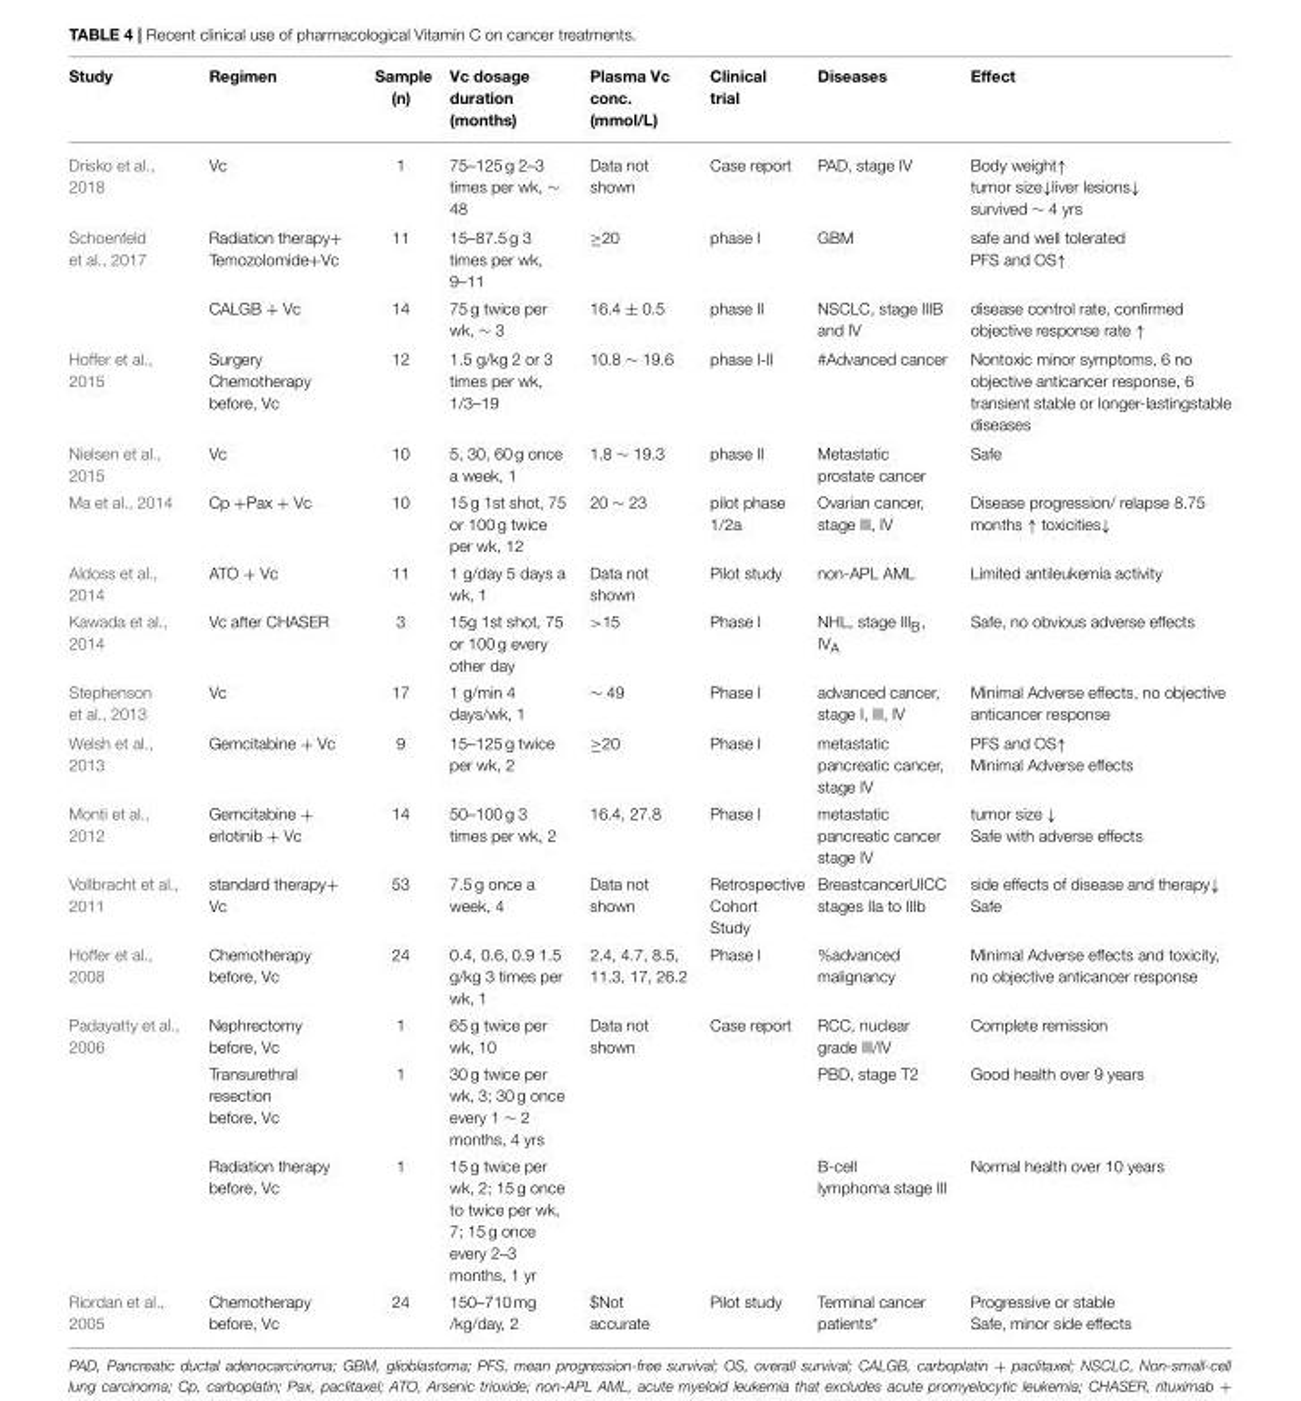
<table><thead><tr><td>Study</td><td>Regimen</td><td>Sample (n)</td><td>Vc dosage duration (months)</td><td>Plasma Vc conc. (mmol/L)</td><td>Clinical trial</td><td>Diseases</td><td>Effect</td></tr></thead><tbody><tr><td>Drisko et al., 2018</td><td>Vc</td><td>1</td><td>75–125 g 2–3 times per wk, ∼ 48</td><td>Data not shown</td><td>Case report</td><td>PAD, stage IV</td><td>Body weight↑ tumor size↓liver lesions↓ survived ∼ 4 yrs</td></tr><tr><td rowspan="2">Schoenfeld et al., 2017</td><td>Radiation therapy+ Temozolomide+Vc</td><td>11</td><td>15–87.5 g 3 times per wk, 9–11</td><td>≥20</td><td>phase I</td><td>GBM</td><td>safe and well tolerated PFS and OS↑</td></tr><tr><td>CALGB + Vc</td><td>14</td><td>75 g twice per wk, ∼ 3</td><td>16.4 ± 0.5</td><td>phase II</td><td>NSCLC, stage IIIB and IV</td><td>disease control rate, confirmed objective response rate ↑</td></tr><tr><td>Hoffer et al., 2015</td><td>Surgery Chemotherapy before, Vc</td><td>12</td><td>1.5 g/kg 2 or 3 times per wk, 1/3–19</td><td>10.8 ∼ 19.6</td><td>phase I-II</td><td>#Advanced cancer</td><td>Nontoxic minor symptoms, 6 no objective anticancer response, 6 transient stable or longer-lastingstable diseases</td></tr><tr><td>Nielsen et al., 2015</td><td>Vc</td><td>10</td><td>5, 30, 60 g once a week, 1</td><td>1.8 ∼ 19.3</td><td>phase II</td><td>Metastatic prostate cancer</td><td>Safe</td></tr><tr><td>Ma et al., 2014</td><td>Cp +Pax + Vc</td><td>10</td><td>15 g 1st shot, 75 or 100 g twice per wk, 12</td><td>20 ∼ 23</td><td>pilot phase 1/2a</td><td>Ovarian cancer, stage III, IV</td><td>Disease progression/ relapse 8.75 months ↑ toxicities↓</td></tr><tr><td>Aldoss et al., 2014</td><td>ATO + Vc</td><td>11</td><td>1 g/day 5 days a wk, 1</td><td>Data not shown</td><td>Pilot study</td><td>non-APL AML</td><td>Limited antileukemia activity</td></tr><tr><td>Kawada et al., 2014</td><td>Vc after CHASER</td><td>3</td><td>15g 1st shot, 75 or 100 g every other day</td><td>&gt;15</td><td>Phase I</td><td>NHL, stage III<sub>B</sub>, IV<sub>A</sub></td><td>Safe, no obvious adverse effects</td></tr><tr><td>Stephenson et al., 2013</td><td>Vc</td><td>17</td><td>1 g/min 4 days/wk, 1</td><td>∼ 49</td><td>Phase I</td><td>advanced cancer, stage I, III, IV</td><td>Minimal Adverse effects, no objective anticancer response</td></tr><tr><td>Welsh et al., 2013</td><td>Gemcitabine + Vc</td><td>9</td><td>15–125 g twice per wk, 2</td><td>≥20</td><td>Phase I</td><td>metastatic pancreatic cancer, stage IV</td><td>PFS and OS↑ Minimal Adverse effects</td></tr><tr><td>Monti et al., 2012</td><td>Gemcitabine + erlotinib + Vc</td><td>14</td><td>50–100 g 3 times per wk, 2</td><td>16.4, 27.8</td><td>Phase I</td><td>metastatic pancreatic cancer stage IV</td><td>tumor size ↓ Safe with adverse effects</td></tr><tr><td>Vollbracht et al., 2011</td><td>standard therapy+ Vc</td><td>53</td><td>7.5 g once a week, 4</td><td>Data not shown</td><td>Retrospective Cohort Study</td><td>BreastcancerUICC stages IIa to IIIb</td><td>side effects of disease and therapy↓ Safe</td></tr><tr><td>Hoffer et al., 2008</td><td>Chemotherapy before, Vc</td><td>24</td><td>0.4, 0.6, 0.9 1.5 g/kg 3 times per wk, 1</td><td>2.4, 4.7, 8.5, 11.3, 17, 26.2</td><td>Phase I</td><td>%advanced malignancy</td><td>Minimal Adverse effects and toxicity, no objective anticancer response</td></tr><tr><td rowspan="3">Padayatty et al., 2006</td><td>Nephrectomy before, Vc</td><td>1</td><td>65 g twice per wk, 10</td><td>Data not shown</td><td>Case report</td><td>RCC, nuclear grade III/IV</td><td>Complete remission</td></tr><tr><td>Transurethral resection before, Vc</td><td>1</td><td>30 g twice per wk, 3; 30 g once every 1 ∼ 2 months, 4 yrs</td><td></td><td></td><td>PBD, stage T2</td><td>Good health over 9 years</td></tr><tr><td>Radiation therapy before, Vc</td><td>1</td><td>15 g twice per wk, 2; 15 g once to twice per wk, 7; 15 g once every 2–3 months, 1 yr</td><td></td><td></td><td>B-cell lymphoma stage III</td><td>Normal health over 10 years</td></tr><tr><td>Riordan et al., 2005</td><td>Chemotherapy before, Vc</td><td>24</td><td>150–710 mg /kg/day, 2</td><td>$Not accurate</td><td>Pilot study</td><td>Terminal cancer patients*</td><td>Progressive or stable Safe, minor side effects</td></tr></tbody></table>